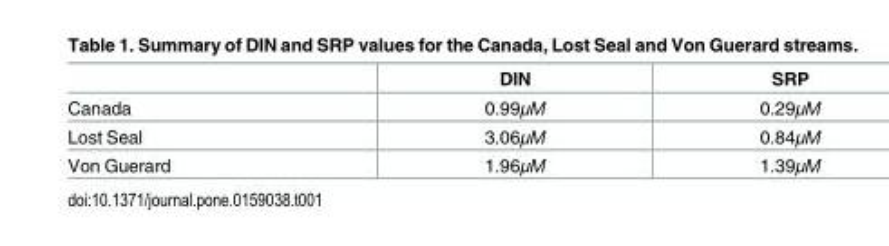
<table><thead><tr><td></td><td>DIN</td><td>SRP</td></tr></thead><tbody><tr><td>Canada</td><td>0.99μM</td><td>0.29μM</td></tr><tr><td>Lost Seal</td><td>3.06μM</td><td>0.84μM</td></tr><tr><td>Von Guerard</td><td>1.96μM</td><td>1.39μM</td></tr></tbody></table>